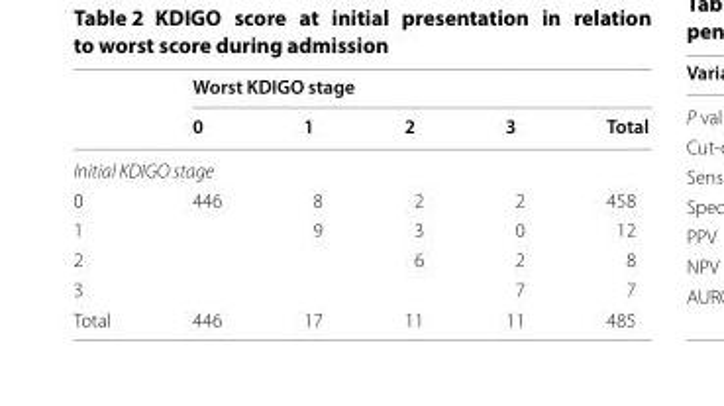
<table><thead><tr><td rowspan="2"></td><td colspan="5">Worst KDIGO stage</td></tr><tr><td>0</td><td>1</td><td>2</td><td>3</td><td>Total</td></tr></thead><tbody><tr><td colspan="6">Initial KDIGO stage</td></tr><tr><td>0</td><td>446</td><td>8</td><td>2</td><td>2</td><td>458</td></tr><tr><td>1</td><td></td><td>9</td><td>3</td><td>0</td><td>12</td></tr><tr><td>2</td><td></td><td></td><td>6</td><td>2</td><td>8</td></tr><tr><td>3</td><td></td><td></td><td></td><td>7</td><td>7</td></tr><tr><td>Total</td><td>446</td><td>17</td><td>11</td><td>11</td><td>485</td></tr></tbody></table>